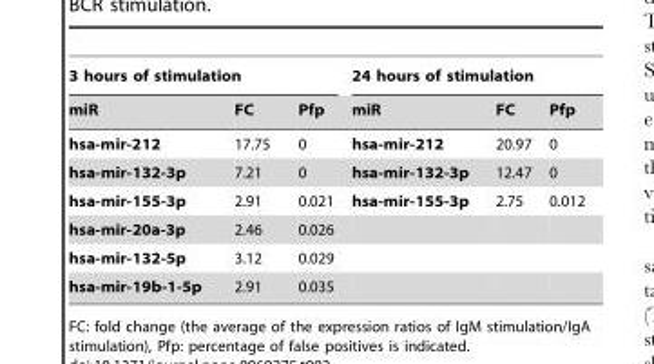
<table><thead><tr><td colspan="3">3 hours of stimulation</td><td colspan="3">24 hours of stimulation</td></tr><tr><td>miR</td><td>FC</td><td>Pfp</td><td>miR</td><td>FC</td><td>Pfp</td></tr></thead><tbody><tr><td>hsa-mir-212</td><td>17.75</td><td>0</td><td>hsa-mir-212</td><td>20.97</td><td>0</td></tr><tr><td>hsa-mir-132-3p</td><td>7.21</td><td>0</td><td>hsa-mir-132-3p</td><td>12.47</td><td>0</td></tr><tr><td>hsa-mir-155-3p</td><td>2.91</td><td>0.021</td><td>hsa-mir-155-3p</td><td>2.75</td><td>0.012</td></tr><tr><td>hsa-mir-20a-3p</td><td>2.46</td><td>0.026</td><td></td><td></td><td></td></tr><tr><td>hsa-mir-132-5p</td><td>3.12</td><td>0.029</td><td></td><td></td><td></td></tr><tr><td>hsa-mir-19b-1-5p</td><td>2.91</td><td>0.035</td><td></td><td></td><td></td></tr></tbody></table>